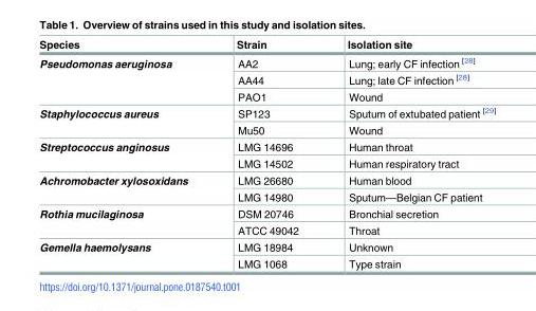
<table><thead><tr><td>Species</td><td>Strain</td><td>Isolation site</td></tr></thead><tbody><tr><td rowspan="3">Pseudomonas aeruginosa</td><td>AA2</td><td>Lung; early CF infection <sup>[28]</sup></td></tr><tr><td>AA44</td><td>Lung; late CF infection <sup>[28]</sup></td></tr><tr><td>PAO1</td><td>Wound</td></tr><tr><td rowspan="2">Staphylococcus aureus</td><td>SP123</td><td>Sputum of extubated patient <sup>[29]</sup></td></tr><tr><td>Mu50</td><td>Wound</td></tr><tr><td rowspan="2">Streptococcus anginosus</td><td>LMG 14696</td><td>Human throat</td></tr><tr><td>LMG 14502</td><td>Human respiratory tract</td></tr><tr><td rowspan="2">Achromobacter xylosoxidans</td><td>LMG 26680</td><td>Human blood</td></tr><tr><td>LMG 14980</td><td>Sputum—Belgian CF patient</td></tr><tr><td rowspan="2">Rothia mucilaginosa</td><td>DSM 20746</td><td>Bronchial secretion</td></tr><tr><td>ATCC 49042</td><td>Throat</td></tr><tr><td rowspan="2">Gemella haemolysans</td><td>LMG 18984</td><td>Unknown</td></tr><tr><td>LMG 1068</td><td>Type strain</td></tr></tbody></table>